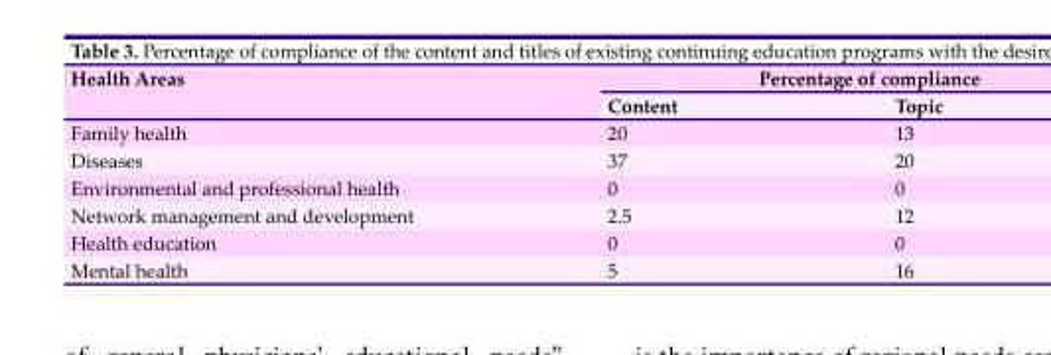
<table><thead><tr><td rowspan="2">Health Areas</td><td colspan="2">Percentage of compliance</td></tr><tr><td>Content</td><td>Topic</td></tr></thead><tbody><tr><td>Family health</td><td>20</td><td>13</td></tr><tr><td>Diseases</td><td>37</td><td>20</td></tr><tr><td>Environmental and professional health</td><td>0</td><td>0</td></tr><tr><td>Network management and development</td><td>2.5</td><td>12</td></tr><tr><td>Health education</td><td>0</td><td>0</td></tr><tr><td>Mental health</td><td>5</td><td>16</td></tr></tbody></table>